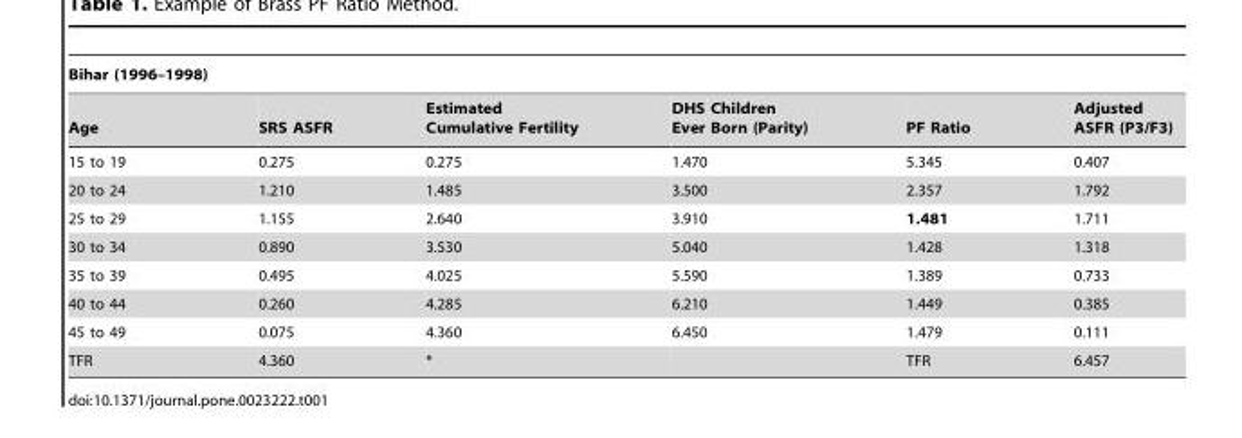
<table><thead><tr><td colspan="6">Bihar (1996–1998)</td></tr><tr><td>Age</td><td>SRS ASFR</td><td>Estimated Cumulative Fertility</td><td>DHS Children Ever Born (Parity)</td><td>PF Ratio</td><td>Adjusted ASFR (P3/F3)</td></tr></thead><tbody><tr><td>15 to 19</td><td>0.275</td><td>0.275</td><td>1.470</td><td>5.345</td><td>0.407</td></tr><tr><td>20 to 24</td><td>1.210</td><td>1.485</td><td>3.500</td><td>2.357</td><td>1.792</td></tr><tr><td>25 to 29</td><td>1.155</td><td>2.640</td><td>3.910</td><td>1.481</td><td>1.711</td></tr><tr><td>30 to 34</td><td>0.890</td><td>3.530</td><td>5.040</td><td>1.428</td><td>1.318</td></tr><tr><td>35 to 39</td><td>0.495</td><td>4.025</td><td>5.590</td><td>1.389</td><td>0.733</td></tr><tr><td>40 to 44</td><td>0.260</td><td>4.285</td><td>6.210</td><td>1.449</td><td>0.385</td></tr><tr><td>45 to 49</td><td>0.075</td><td>4.360</td><td>6.450</td><td>1.479</td><td>0.111</td></tr><tr><td>TFR</td><td>4.360</td><td>*</td><td></td><td>TFR</td><td>6.457</td></tr></tbody></table>